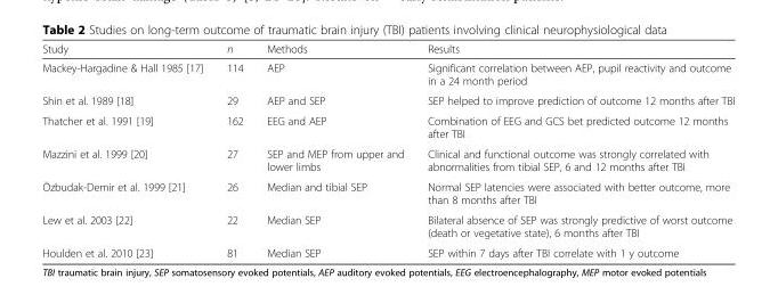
<table><thead><tr><td>Study</td><td>n</td><td>Methods</td><td>Results</td></tr></thead><tbody><tr><td>Mackey-Hargadine &amp; Hall 1985 [17]</td><td>114</td><td>AEP</td><td>Significant correlation between AEP, pupil reactivity and outcome in a 24 month period</td></tr><tr><td>Shin et al. 1989 [18]</td><td>29</td><td>AEP and SEP</td><td>SEP helped to improve prediction of outcome 12 months after TBI</td></tr><tr><td>Thatcher et al. 1991 [19]</td><td>162</td><td>EEG and AEP</td><td>Combination of EEG and GCS bet predicted outcome 12 months after TBI</td></tr><tr><td>Mazzini et al. 1999 [20]</td><td>27</td><td>SEP and MEP from upper and lower limbs</td><td>Clinical and functional outcome was strongly correlated with abnormalities from tibial SEP, 6 and 12 months after TBI</td></tr><tr><td>Özbudak-Demir et al. 1999 [21]</td><td>26</td><td>Median and tibial SEP</td><td>Normal SEP latencies were associated with better outcome, more than 8 months after TBI</td></tr><tr><td>Lew et al. 2003 [22]</td><td>22</td><td>Median SEP</td><td>Bilateral absence of SEP was strongly predictive of worst outcome (death or vegetative state), 6 months after TBI</td></tr><tr><td>Houlden et al. 2010 [23]</td><td>81</td><td>Median SEP</td><td>SEP within 7 days after TBI correlate with 1 y outcome</td></tr></tbody></table>